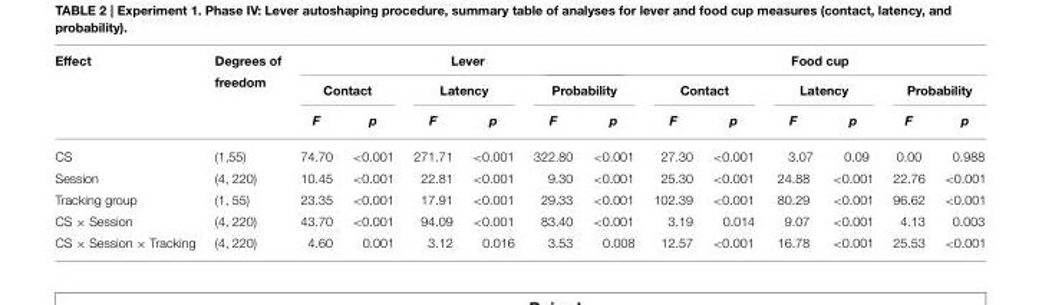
<table><thead><tr><td rowspan="3">Effect</td><td rowspan="3">Degrees of freedom</td><td colspan="6">Lever</td><td colspan="6">Food cup</td></tr><tr><td colspan="2">Contact</td><td colspan="2">Latency</td><td colspan="2">Probability</td><td colspan="2">Contact</td><td colspan="2">Latency</td><td colspan="2">Probability</td></tr><tr><td>F</td><td>p</td><td>F</td><td>p</td><td>F</td><td>p</td><td>F</td><td>p</td><td>F</td><td>p</td><td>F</td><td>p</td></tr></thead><tbody><tr><td>CS</td><td>(1,55)</td><td>74.70</td><td>&lt;0.001</td><td>271.71</td><td>&lt;0.001</td><td>322.80</td><td>&lt;0.001</td><td>27.30</td><td>&lt;0.001</td><td>3.07</td><td>0.09</td><td>0.00</td><td>0.988</td></tr><tr><td>Session</td><td>(4, 220)</td><td>10.45</td><td>&lt;0.001</td><td>22.81</td><td>&lt;0.001</td><td>9.30</td><td>&lt;0.001</td><td>25.30</td><td>&lt;0.001</td><td>24.88</td><td>&lt;0.001</td><td>22.76</td><td>&lt;0.001</td></tr><tr><td>Tracking group</td><td>(1, 55)</td><td>23.35</td><td>&lt;0.001</td><td>17.91</td><td>&lt;0.001</td><td>29.33</td><td>&lt;0.001</td><td>102.39</td><td>&lt;0.001</td><td>80.29</td><td>&lt;0.001</td><td>96.62</td><td>&lt;0.001</td></tr><tr><td>CS × Session</td><td>(4, 220)</td><td>43.70</td><td>&lt;0.001</td><td>94.09</td><td>&lt;0.001</td><td>83.40</td><td>&lt;0.001</td><td>3.19</td><td>0.014</td><td>9.07</td><td>&lt;0.001</td><td>4.13</td><td>0.003</td></tr><tr><td>CS × Session × Tracking</td><td>(4, 220)</td><td>4.60</td><td>0.001</td><td>3.12</td><td>0.016</td><td>3.53</td><td>0.008</td><td>12.57</td><td>&lt;0.001</td><td>16.78</td><td>&lt;0.001</td><td>25.53</td><td>&lt;0.001</td></tr></tbody></table>